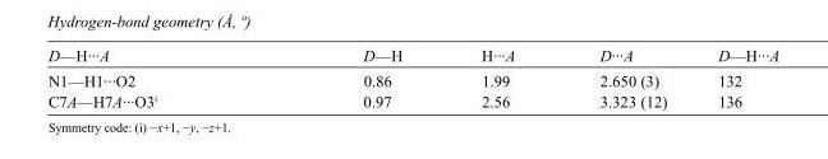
<table><tbody><tr><td>D—H···A</td><td>D—H</td><td>H···A</td><td>D···A</td><td>D—H···A</td></tr><tr><td>N1—H1···O2</td><td>0.86</td><td>1.99</td><td>2.650 (3)</td><td>132</td></tr><tr><td>C7A—H7A···O3<sup>i</sup></td><td>0.97</td><td>2.56</td><td>3.323 (12)</td><td>136</td></tr></tbody></table>